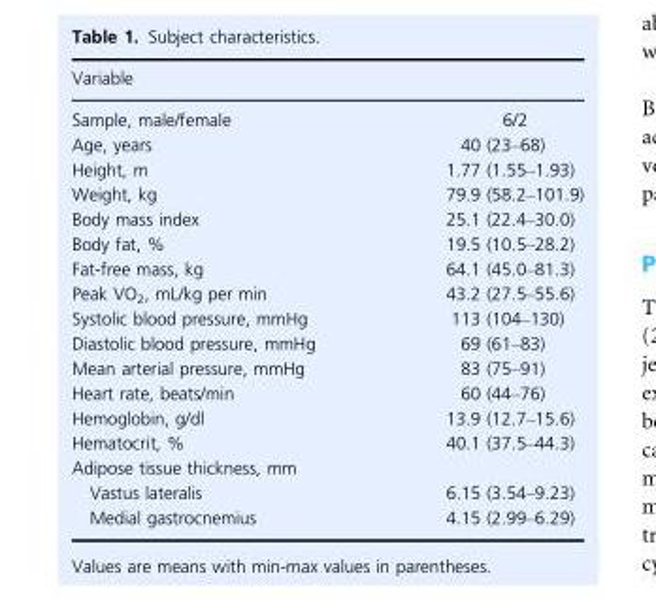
<table><thead><tr><td>Variable</td><td></td></tr></thead><tbody><tr><td>Sample, male/female</td><td>6/2</td></tr><tr><td>Age, years</td><td>40 (23–68)</td></tr><tr><td>Height, m</td><td>1.77 (1.55–1.93)</td></tr><tr><td>Weight, kg</td><td>79.9 (58.2–101.9)</td></tr><tr><td>Body mass index</td><td>25.1 (22.4–30.0)</td></tr><tr><td>Body fat, %</td><td>19.5 (10.5–28.2)</td></tr><tr><td>Fat-free mass, kg</td><td>64.1 (45.0–81.3)</td></tr><tr><td>Peak VO<sub>2</sub>, mL/kg per min</td><td>43.2 (27.5–55.6)</td></tr><tr><td>Systolic blood pressure, mmHg</td><td>113 (104–130)</td></tr><tr><td>Diastolic blood pressure, mmHg</td><td>69 (61–83)</td></tr><tr><td>Mean arterial pressure, mmHg</td><td>83 (75–91)</td></tr><tr><td>Heart rate, beats/min</td><td>60 (44–76)</td></tr><tr><td>Hemoglobin, g/dl</td><td>13.9 (12.7–15.6)</td></tr><tr><td>Hematocrit, %</td><td>40.1 (37.5–44.3)</td></tr><tr><td colspan="2">Adipose tissue thickness, mm</td></tr><tr><td>Vastus lateralis</td><td>6.15 (3.54–9.23)</td></tr><tr><td>Medial gastrocnemius</td><td>4.15 (2.99–6.29)</td></tr></tbody></table>